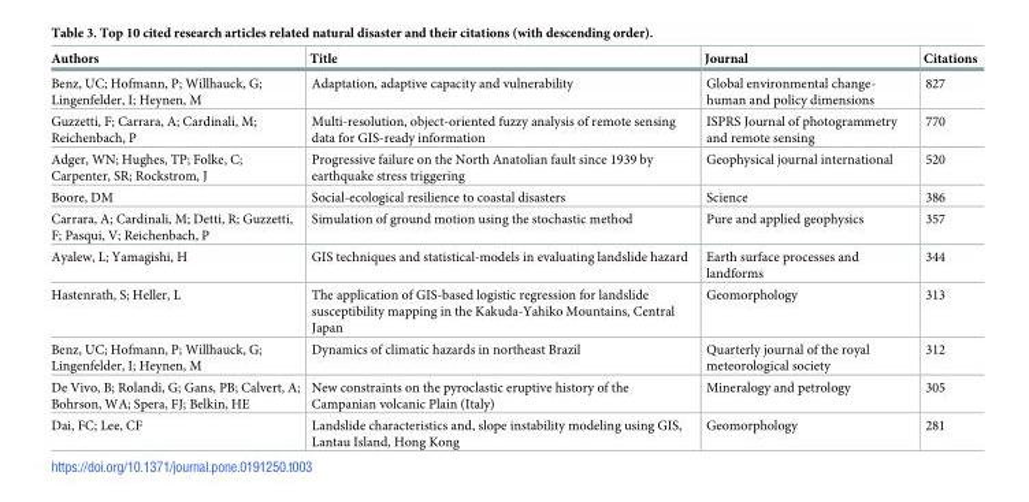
<table><thead><tr><td>Authors</td><td>Title</td><td>Journal</td><td>Citations</td></tr></thead><tbody><tr><td>Benz, UC; Hofmann, P; Willhauck, G; Lingenfelder, I; Heynen, M</td><td>Adaptation, adaptive capacity and vulnerability</td><td>Global environmental change- human and policy dimensions</td><td>827</td></tr><tr><td>Guzzetti, F; Carrara, A; Cardinali, M; Reichenbach, P</td><td>Multi-resolution, object-oriented fuzzy analysis of remote sensing data for GIS-ready information</td><td>ISPRS Journal of photogrammetry and remote sensing</td><td>770</td></tr><tr><td>Adger, WN; Hughes, TP; Folke, C; Carpenter, SR; Rockstrom, J</td><td>Progressive failure on the North Anatolian fault since 1939 by earthquake stress triggering</td><td>Geophysical journal international</td><td>520</td></tr><tr><td>Boore, DM</td><td>Social-ecological resilience to coastal disasters</td><td>Science</td><td>386</td></tr><tr><td>Carrara, A; Cardinali, M; Detti, R; Guzzetti, F; Pasqui, V; Reichenbach, P</td><td>Simulation of ground motion using the stochastic method</td><td>Pure and applied geophysics</td><td>357</td></tr><tr><td>Ayalew, L; Yamagishi, H</td><td>GIS techniques and statistical-models in evaluating landslide hazard</td><td>Earth surface processes and landforms</td><td>344</td></tr><tr><td>Hastenrath, S; Heller, L</td><td>The application of GIS-based logistic regression for landslide susceptibility mapping in the Kakuda-Yahiko Mountains, Central Japan</td><td>Geomorphology</td><td>313</td></tr><tr><td>Benz, UC; Hofmann, P; Willhauck, G; Lingenfelder, I; Heynen, M</td><td>Dynamics of climatic hazards in northeast Brazil</td><td>Quarterly journal of the royal meteorological society</td><td>312</td></tr><tr><td>De Vivo, B; Rolandi, G; Gans, PB; Calvert, A; Bohrson, WA; Spera, FJ; Belkin, HE</td><td>New constraints on the pyroclastic eruptive history of the Campanian volcanic Plain (Italy)</td><td>Mineralogy and petrology</td><td>305</td></tr><tr><td>Dai, FC; Lee, CF</td><td>Landslide characteristics and, slope instability modeling using GIS, Lantau Island, Hong Kong</td><td>Geomorphology</td><td>281</td></tr></tbody></table>